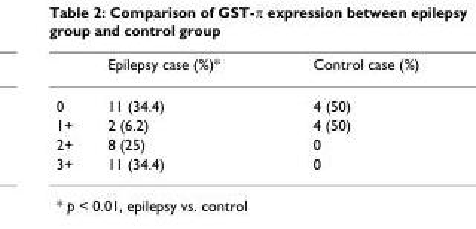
<table><thead><tr><td></td><td>Epilepsy case (%)*</td><td>Control case (%)</td></tr></thead><tbody><tr><td>0</td><td>11 (34.4)</td><td>4 (50)</td></tr><tr><td>1+</td><td>2 (6.2)</td><td>4 (50)</td></tr><tr><td>2+</td><td>8 (25)</td><td>0</td></tr><tr><td>3+</td><td>11 (34.4)</td><td>0</td></tr></tbody></table>